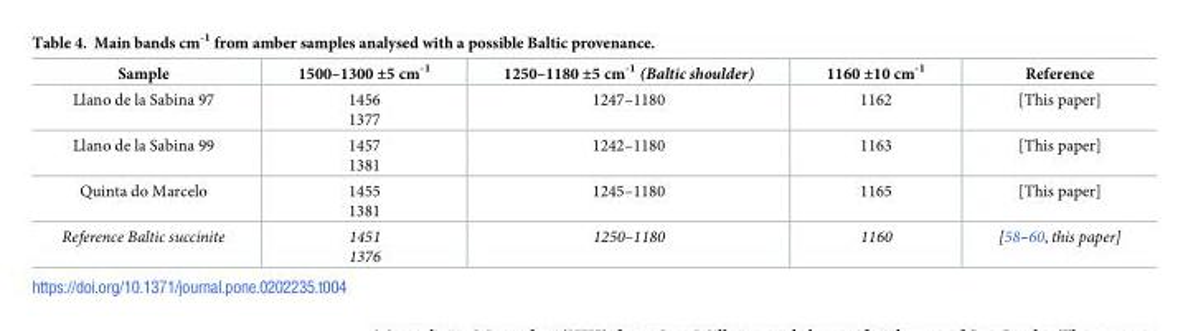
<table><thead><tr><td>Sample</td><td>1500–1300 ±5 cm<sup>-1</sup></td><td>1250–1180 ±5 cm<sup>-1</sup> (Baltic shoulder)</td><td>1160 ±10 cm<sup>-1</sup></td><td>Reference</td></tr></thead><tbody><tr><td>Llano de la Sabina 97</td><td>1456 1377</td><td>1247–1180</td><td>1162</td><td>[This paper]</td></tr><tr><td>Llano de la Sabina 99</td><td>1457 1381</td><td>1242–1180</td><td>1163</td><td>[This paper]</td></tr><tr><td>Quinta do Marcelo</td><td>1455 1381</td><td>1245–1180</td><td>1165</td><td>[This paper]</td></tr><tr><td>Reference Baltic succinite</td><td>1451 1376</td><td>1250–1180</td><td>1160</td><td>[58–60, this paper]</td></tr></tbody></table>